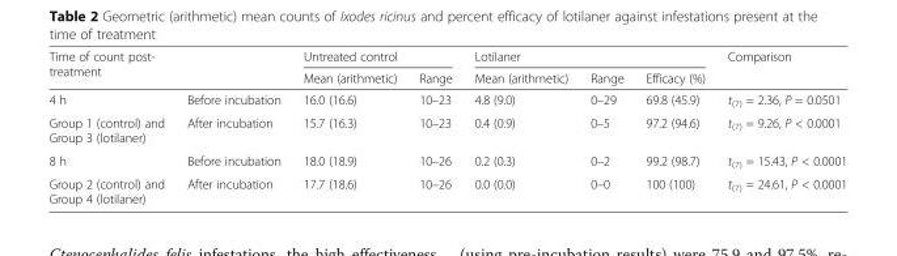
<table><thead><tr><td rowspan="2">Time of count post- treatment</td><td rowspan="2"></td><td colspan="2">Untreated control</td><td colspan="3">Lotilaner</td><td rowspan="2">Comparison</td></tr><tr><td>Mean (arithmetic)</td><td>Range</td><td>Mean (arithmetic)</td><td>Range</td><td>Efficacy (%)</td></tr></thead><tbody><tr><td>4 h</td><td>Before incubation</td><td>16.0 (16.6)</td><td>10–23</td><td>4.8 (9.0)</td><td>0–29</td><td>69.8 (45.9)</td><td>t<sub>(7)</sub> = 2.36, P = 0.0501</td></tr><tr><td>Group 1 (control) and Group 3 (lotilaner)</td><td>After incubation</td><td>15.7 (16.3)</td><td>10–23</td><td>0.4 (0.9)</td><td>0–5</td><td>97.2 (94.6)</td><td>t<sub>(7)</sub> = 9.26, P &lt; 0.0001</td></tr><tr><td>8 h</td><td>Before incubation</td><td>18.0 (18.9)</td><td>10–26</td><td>0.2 (0.3)</td><td>0–2</td><td>99.2 (98.7)</td><td>t<sub>(7)</sub> = 15.43, P &lt; 0.0001</td></tr><tr><td>Group 2 (control) and Group 4 (lotilaner)</td><td>After incubation</td><td>17.7 (18.6)</td><td>10–26</td><td>0.0 (0.0)</td><td>0–0</td><td>100 (100)</td><td>t<sub>(7)</sub> = 24.61, P &lt; 0.0001</td></tr></tbody></table>